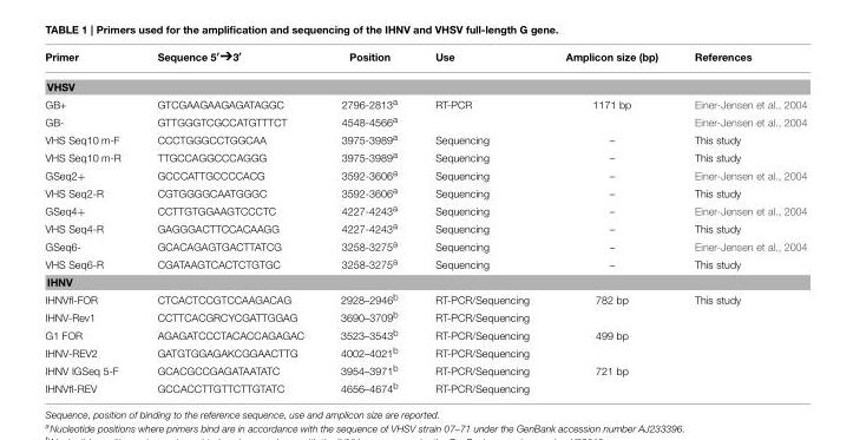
<table><thead><tr><td>Primer</td><td>Sequence 5′→3′</td><td>Position</td><td>Use</td><td>Amplicon size (bp)</td><td>References</td></tr></thead><tbody><tr><td colspan="6">VHSV</td></tr><tr><td>GB+</td><td>GTCGAAGAAGAGATAGGC</td><td>2796-2813<sup>a</sup></td><td>RT-PCR</td><td>1171 bp</td><td>Einer-Jensen et al., 2004</td></tr><tr><td>GB-</td><td>GTTGGGTCGCCATGTTTCT</td><td>4548-4566<sup>a</sup></td><td></td><td></td><td>Einer-Jensen et al., 2004</td></tr><tr><td>VHS Seq10 m-F</td><td>CCCTGGGCCTGGCAA</td><td>3975-3989<sup>a</sup></td><td>Sequencing</td><td>–</td><td>This study</td></tr><tr><td>VHS Seq10 m-R</td><td>TTGCCAGGCCCAGGG</td><td>3975-3989<sup>a</sup></td><td>Sequencing</td><td>–</td><td>This study</td></tr><tr><td>GSeq2+</td><td>GCCCATTGCCCCACG</td><td>3592-3606<sup>a</sup></td><td>Sequencing</td><td>–</td><td>Einer-Jensen et al., 2004</td></tr><tr><td>VHS Seq2-R</td><td>CGTGGGGCAATGGGC</td><td>3592-3606<sup>a</sup></td><td>Sequencing</td><td>–</td><td>This study</td></tr><tr><td>GSeq4+</td><td>CCTTGTGGAAGTCCCTC</td><td>4227-4243<sup>a</sup></td><td>Sequencing</td><td>–</td><td>Einer-Jensen et al., 2004</td></tr><tr><td>VHS Seq4-R</td><td>GAGGGACTTCCACAAGG</td><td>4227-4243<sup>a</sup></td><td>Sequencing</td><td>–</td><td>This study</td></tr><tr><td>GSeq6-</td><td>GCACAGAGTGACTTATCG</td><td>3258-3275<sup>a</sup></td><td>Sequencing</td><td>–</td><td>Einer-Jensen et al., 2004</td></tr><tr><td>VHS Seq6-R</td><td>CGATAAGTCACTCTGTGC</td><td>3258-3275<sup>a</sup></td><td>Sequencing</td><td>–</td><td>This study</td></tr><tr><td colspan="6">IHNV</td></tr><tr><td>IHNVfl-FOR</td><td>CTCACTCCGTCCAAGACAG</td><td>2928–2946<sup>b</sup></td><td>RT-PCR/Sequencing</td><td>782 bp</td><td>This study</td></tr><tr><td>IHNV-Rev1</td><td>CCTTCACGRCYCGATTGGAG</td><td>3690–3709<sup>b</sup></td><td>RT-PCR/Sequencing</td><td></td><td></td></tr><tr><td>G1 FOR</td><td>AGAGATCCCTACACCAGAGAC</td><td>3523–3543<sup>b</sup></td><td>RT-PCR/Sequencing</td><td>499 bp</td><td></td></tr><tr><td>IHNV-REV2</td><td>GATGTGGAGAKCGGAACTTG</td><td>4002–4021<sup>b</sup></td><td>RT-PCR/Sequencing</td><td></td><td></td></tr><tr><td>IHNV IGSeq 5-F</td><td>GCACGCCGAGATAATATC</td><td>3954–3971<sup>b</sup></td><td>RT-PCR/Sequencing</td><td>721 bp</td><td></td></tr><tr><td>IHNVfl-REV</td><td>GCCACCTTGTTCTTGTATC</td><td>4656–4674<sup>b</sup></td><td>RT-PCR/Sequencing</td><td></td><td></td></tr></tbody></table>